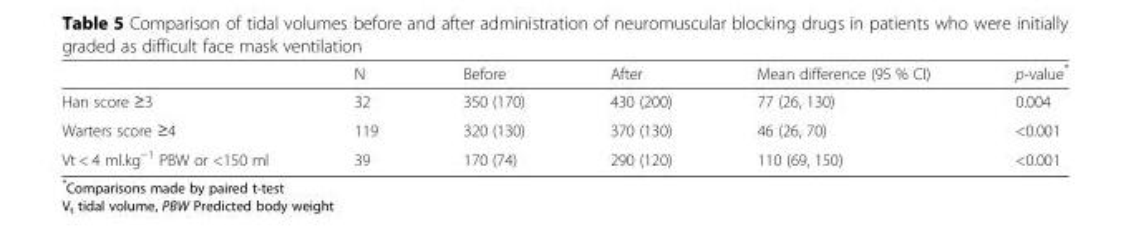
<table><thead><tr><td></td><td>N</td><td>Before</td><td>After</td><td>Mean difference (95 % CI)</td><td>p-value*</td></tr></thead><tbody><tr><td>Han score ≥3</td><td>32</td><td>350 (170)</td><td>430 (200)</td><td>77 (26, 130)</td><td>0.004</td></tr><tr><td>Warters score ≥4</td><td>119</td><td>320 (130)</td><td>370 (130)</td><td>46 (26, 70)</td><td>&lt;0.001</td></tr><tr><td>Vt &lt; 4 ml.kg<sup>−1</sup> PBW or &lt;150 ml</td><td>39</td><td>170 (74)</td><td>290 (120)</td><td>110 (69, 150)</td><td>&lt;0.001</td></tr></tbody></table>